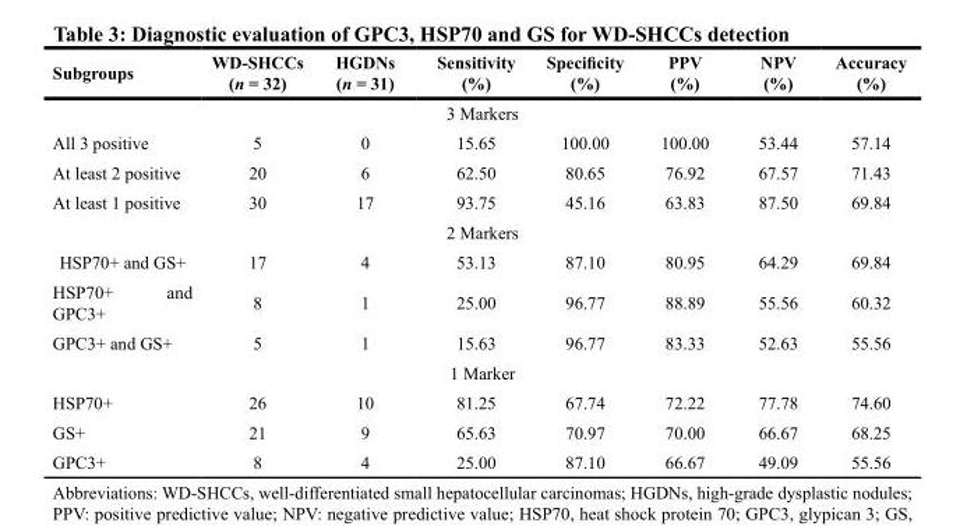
<table><thead><tr><td>Subgroups</td><td>WD-SHCCs (n = 32)</td><td>HGDNs (n = 31)</td><td>Sensitivity (%)</td><td>Specificity (%)</td><td>PPV (%)</td><td>NPV (%)</td><td>Accuracy (%)</td></tr></thead><tbody><tr><td colspan="8">3 Markers</td></tr><tr><td>All 3 positive</td><td>5</td><td>0</td><td>15.65</td><td>100.00</td><td>100.00</td><td>53.44</td><td>57.14</td></tr><tr><td>At least 2 positive</td><td>20</td><td>6</td><td>62.50</td><td>80.65</td><td>76.92</td><td>67.57</td><td>71.43</td></tr><tr><td>At least 1 positive</td><td>30</td><td>17</td><td>93.75</td><td>45.16</td><td>63.83</td><td>87.50</td><td>69.84</td></tr><tr><td colspan="8">2 Markers</td></tr><tr><td>HSP70+ and GS+</td><td>17</td><td>4</td><td>53.13</td><td>87.10</td><td>80.95</td><td>64.29</td><td>69.84</td></tr><tr><td>HSP70+ and GPC3+</td><td>8</td><td>1</td><td>25.00</td><td>96.77</td><td>88.89</td><td>55.56</td><td>60.32</td></tr><tr><td>GPC3+ and GS+</td><td>5</td><td>1</td><td>15.63</td><td>96.77</td><td>83.33</td><td>52.63</td><td>55.56</td></tr><tr><td colspan="8">1 Marker</td></tr><tr><td>HSP70+</td><td>26</td><td>10</td><td>81.25</td><td>67.74</td><td>72.22</td><td>77.78</td><td>74.60</td></tr><tr><td>GS+</td><td>21</td><td>9</td><td>65.63</td><td>70.97</td><td>70.00</td><td>66.67</td><td>68.25</td></tr><tr><td>GPC3+</td><td>8</td><td>4</td><td>25.00</td><td>87.10</td><td>66.67</td><td>49.09</td><td>55.56</td></tr></tbody></table>